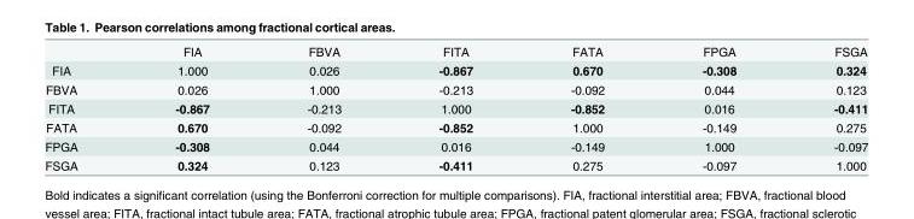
<table><thead><tr><td></td><td>FIA</td><td>FBVA</td><td>FITA</td><td>FATA</td><td>FPGA</td><td>FSGA</td></tr></thead><tbody><tr><td>FIA</td><td>1.000</td><td>0.026</td><td>-0.867</td><td>0.670</td><td>-0.308</td><td>0.324</td></tr><tr><td>FBVA</td><td>0.026</td><td>1.000</td><td>-0.213</td><td>-0.092</td><td>0.044</td><td>0.123</td></tr><tr><td>FITA</td><td>-0.867</td><td>-0.213</td><td>1.000</td><td>-0.852</td><td>0.016</td><td>-0.411</td></tr><tr><td>FATA</td><td>0.670</td><td>-0.092</td><td>-0.852</td><td>1.000</td><td>-0.149</td><td>0.275</td></tr><tr><td>FPGA</td><td>-0.308</td><td>0.044</td><td>0.016</td><td>-0.149</td><td>1.000</td><td>-0.097</td></tr><tr><td>FSGA</td><td>0.324</td><td>0.123</td><td>-0.411</td><td>0.275</td><td>-0.097</td><td>1.000</td></tr></tbody></table>